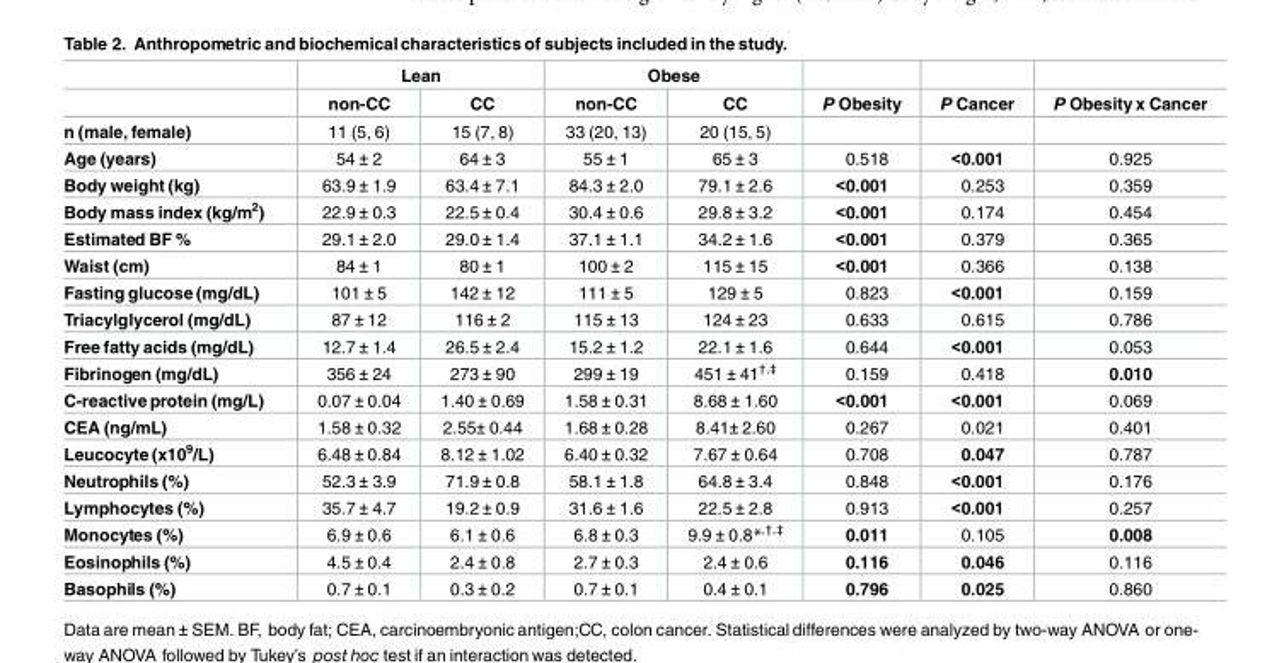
<table><thead><tr><td rowspan="2"></td><td colspan="2">Lean</td><td colspan="2">Obese</td><td rowspan="2">P Obesity</td><td rowspan="2">P Cancer</td><td rowspan="2">P Obesity x Cancer</td></tr><tr><td>non-CC</td><td>CC</td><td>non-CC</td><td>CC</td></tr></thead><tbody><tr><td>n (male, female)</td><td>11 (5, 6)</td><td>15 (7, 8)</td><td>33 (20, 13)</td><td>20 (15, 5)</td><td></td><td></td><td></td></tr><tr><td>Age (years)</td><td>54 ± 2</td><td>64 ± 3</td><td>55 ± 1</td><td>65 ± 3</td><td>0.518</td><td>&lt;0.001</td><td>0.925</td></tr><tr><td>Body weight (kg)</td><td>63.9 ± 1.9</td><td>63.4 ± 7.1</td><td>84.3 ± 2.0</td><td>79.1 ± 2.6</td><td>&lt;0.001</td><td>0.253</td><td>0.359</td></tr><tr><td>Body mass index (kg/m<sup>2</sup>)</td><td>22.9 ± 0.3</td><td>22.5 ± 0.4</td><td>30.4 ± 0.6</td><td>29.8 ± 3.2</td><td>&lt;0.001</td><td>0.174</td><td>0.454</td></tr><tr><td>Estimated BF %</td><td>29.1 ± 2.0</td><td>29.0 ± 1.4</td><td>37.1 ± 1.1</td><td>34.2 ± 1.6</td><td>&lt;0.001</td><td>0.379</td><td>0.365</td></tr><tr><td>Waist (cm)</td><td>84 ± 1</td><td>80 ± 1</td><td>100 ± 2</td><td>115 ± 15</td><td>&lt;0.001</td><td>0.366</td><td>0.138</td></tr><tr><td>Fasting glucose (mg/dL)</td><td>101 ± 5</td><td>142 ± 12</td><td>111 ± 5</td><td>129 ± 5</td><td>0.823</td><td>&lt;0.001</td><td>0.159</td></tr><tr><td>Triacylglycerol (mg/dL)</td><td>87 ± 12</td><td>116 ± 2</td><td>115 ± 13</td><td>124 ± 23</td><td>0.633</td><td>0.615</td><td>0.786</td></tr><tr><td>Free fatty acids (mg/dL)</td><td>12.7 ± 1.4</td><td>26.5 ± 2.4</td><td>15.2 ± 1.2</td><td>22.1 ± 1.6</td><td>0.644</td><td>&lt;0.001</td><td>0.053</td></tr><tr><td>Fibrinogen (mg/dL)</td><td>356 ± 24</td><td>273 ± 90</td><td>299 ± 19</td><td>451 ± 41<sup>†,‡</sup></td><td>0.159</td><td>0.418</td><td>0.010</td></tr><tr><td>C-reactive protein (mg/L)</td><td>0.07 ± 0.04</td><td>1.40 ± 0.69</td><td>1.58 ± 0.31</td><td>8.68 ± 1.60</td><td>&lt;0.001</td><td>&lt;0.001</td><td>0.069</td></tr><tr><td>CEA (ng/mL)</td><td>1.58 ± 0.32</td><td>2.55± 0.44</td><td>1.68 ± 0.28</td><td>8.41± 2.60</td><td>0.267</td><td>0.021</td><td>0.401</td></tr><tr><td>Leucocyte (x10<sup>9</sup>/L)</td><td>6.48 ± 0.84</td><td>8.12 ± 1.02</td><td>6.40 ± 0.32</td><td>7.67 ± 0.64</td><td>0.708</td><td>0.047</td><td>0.787</td></tr><tr><td>Neutrophils (%)</td><td>52.3 ± 3.9</td><td>71.9 ± 0.8</td><td>58.1 ± 1.8</td><td>64.8 ± 3.4</td><td>0.848</td><td>&lt;0.001</td><td>0.176</td></tr><tr><td>Lymphocytes (%)</td><td>35.7 ± 4.7</td><td>19.2 ± 0.9</td><td>31.6 ± 1.6</td><td>22.5 ± 2.8</td><td>0.913</td><td>&lt;0.001</td><td>0.257</td></tr><tr><td>Monocytes (%)</td><td>6.9 ± 0.6</td><td>6.1 ± 0.6</td><td>6.8 ± 0.3</td><td>9.9 ± 0.8*<sup>,†,‡</sup></td><td>0.011</td><td>0.105</td><td>0.008</td></tr><tr><td>Eosinophils (%)</td><td>4.5 ± 0.4</td><td>2.4 ± 0.8</td><td>2.7 ± 0.3</td><td>2.4 ± 0.6</td><td>0.116</td><td>0.046</td><td>0.116</td></tr><tr><td>Basophils (%)</td><td>0.7 ± 0.1</td><td>0.3 ± 0.2</td><td>0.7 ± 0.1</td><td>0.4 ± 0.1</td><td>0.796</td><td>0.025</td><td>0.860</td></tr></tbody></table>